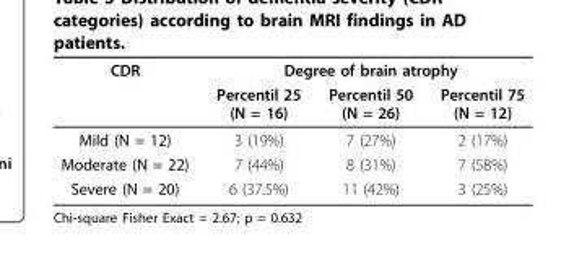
<table><thead><tr><td rowspan="2">CDR</td><td colspan="3">Degree of brain atrophy</td></tr><tr><td>Percentil 25 (N = 16)</td><td>Percentil 50 (N = 26)</td><td>Percentil 75 (N = 12)</td></tr></thead><tbody><tr><td>Mild (N = 12)</td><td>3 (19%)</td><td>7 (27%)</td><td>2 (17%)</td></tr><tr><td>Moderate (N = 22)</td><td>7 (44%)</td><td>8 (31%)</td><td>7 (58%)</td></tr><tr><td>Severe (N = 20)</td><td>6 (37.5%)</td><td>11 (42%)</td><td>3 (25%)</td></tr></tbody></table>